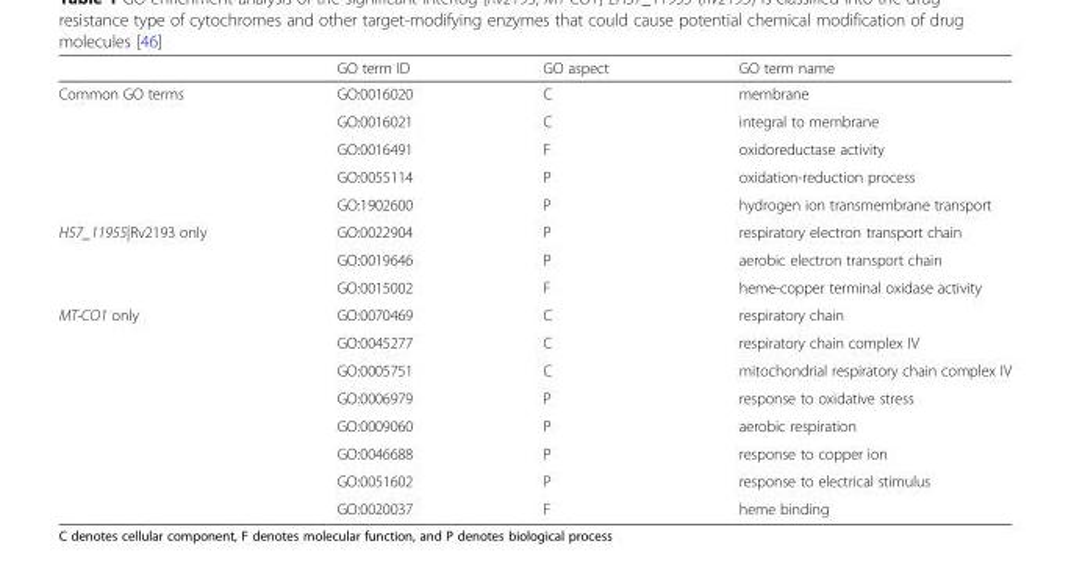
<table><thead><tr><td></td><td>GO term ID</td><td>GO aspect</td><td>GO term name</td></tr></thead><tbody><tr><td rowspan="5">Common GO terms</td><td>GO:0016020</td><td>C</td><td>membrane</td></tr><tr><td>GO:0016021</td><td>C</td><td>integral to membrane</td></tr><tr><td>GO:0016491</td><td>F</td><td>oxidoreductase activity</td></tr><tr><td>GO:0055114</td><td>P</td><td>oxidation-reduction process</td></tr><tr><td>GO:1902600</td><td>P</td><td>hydrogen ion transmembrane transport</td></tr><tr><td rowspan="3">H57_11955|Rv2193 only</td><td>GO:0022904</td><td>P</td><td>respiratory electron transport chain</td></tr><tr><td>GO:0019646</td><td>P</td><td>aerobic electron transport chain</td></tr><tr><td>GO:0015002</td><td>F</td><td>heme-copper terminal oxidase activity</td></tr><tr><td rowspan="8">MT-CO1 only</td><td>GO:0070469</td><td>C</td><td>respiratory chain</td></tr><tr><td>GO:0045277</td><td>C</td><td>respiratory chain complex IV</td></tr><tr><td>GO:0005751</td><td>C</td><td>mitochondrial respiratory chain complex IV</td></tr><tr><td>GO:0006979</td><td>P</td><td>response to oxidative stress</td></tr><tr><td>GO:0009060</td><td>P</td><td>aerobic respiration</td></tr><tr><td>GO:0046688</td><td>P</td><td>response to copper ion</td></tr><tr><td>GO:0051602</td><td>P</td><td>response to electrical stimulus</td></tr><tr><td>GO:0020037</td><td>F</td><td>heme binding</td></tr></tbody></table>